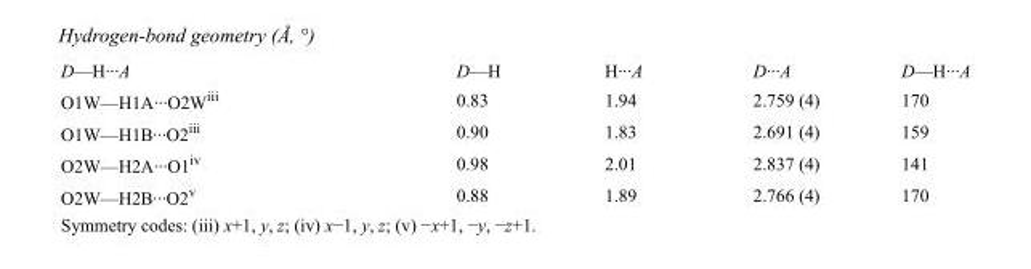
<table><tbody><tr><td>D—H···A</td><td>D—H</td><td>H···A</td><td>D···A</td><td>D—H···A</td></tr><tr><td>O1W—H1A···O2W<sup>iii</sup></td><td>0.83</td><td>1.94</td><td>2.759 (4)</td><td>170</td></tr><tr><td>O1W—H1B···O2<sup>iii</sup></td><td>0.90</td><td>1.83</td><td>2.691 (4)</td><td>159</td></tr><tr><td>O2W—H2A···O1<sup>iv</sup></td><td>0.98</td><td>2.01</td><td>2.837 (4)</td><td>141</td></tr><tr><td>O2W—H2B···O2<sup>v</sup></td><td>0.88</td><td>1.89</td><td>2.766 (4)</td><td>170</td></tr></tbody></table>